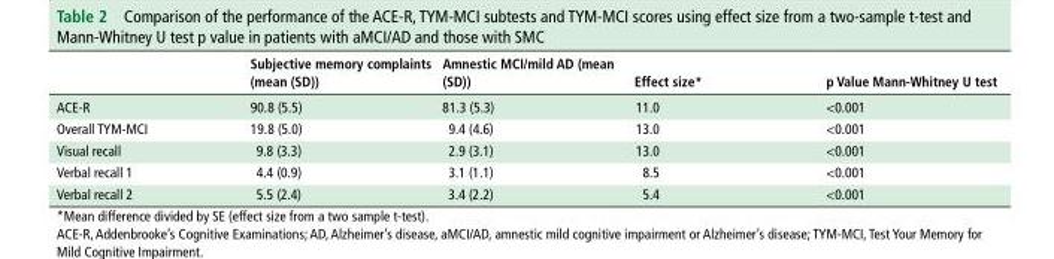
<table><thead><tr><td></td><td>subjective memory complaints (mean (sd))</td><td>Amnestic McI/mild Ad (mean (sd))</td><td>effect size*</td><td>p Value Mann-Whitney u test</td></tr></thead><tbody><tr><td>ACE-R</td><td>90.8 (5.5)</td><td>81.3 (5.3)</td><td>11.0</td><td>&lt;0.001</td></tr><tr><td>Overall TYM-MCI</td><td>19.8 (5.0)</td><td>9.4 (4.6)</td><td>13.0</td><td>&lt;0.001</td></tr><tr><td>Visual recall</td><td>9.8 (3.3)</td><td>2.9 (3.1)</td><td>13.0</td><td>&lt;0.001</td></tr><tr><td>Verbal recall 1</td><td>4.4 (0.9)</td><td>3.1 (1.1)</td><td>8.5</td><td>&lt;0.001</td></tr><tr><td>Verbal recall 2</td><td>5.5 (2.4)</td><td>3.4 (2.2)</td><td>5.4</td><td>&lt;0.001</td></tr></tbody></table>